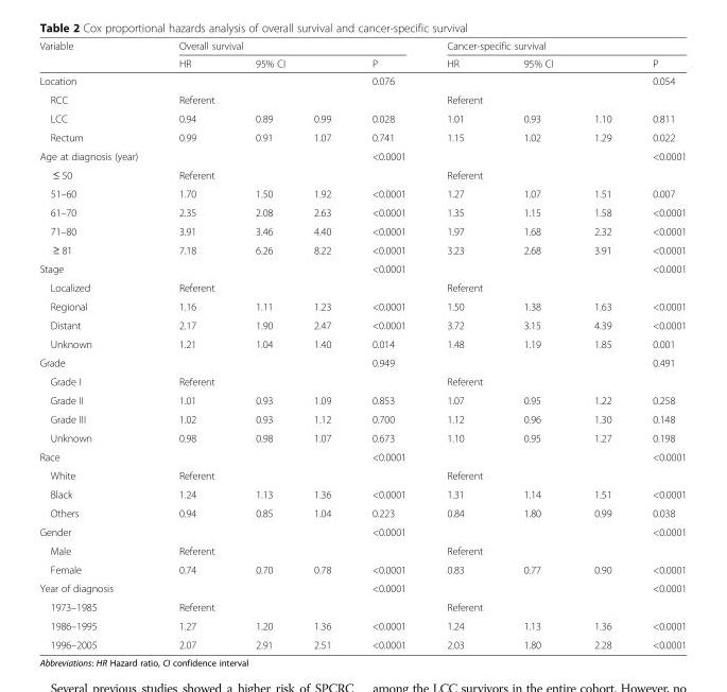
<table><thead><tr><td rowspan="3">Variable Location</td><td colspan="4">Overall survival</td><td colspan="4">Cancer-specific survival</td></tr><tr><td rowspan="2">HR</td><td colspan="2">95% CI</td><td rowspan="2">P 0.076</td><td rowspan="2">HR</td><td rowspan="2">95% CI</td><td rowspan="2"></td><td rowspan="2">P 0.054</td></tr><tr><td></td><td></td></tr></thead><tbody><tr><td>RCC</td><td>Referent</td><td></td><td></td><td></td><td>Referent</td><td></td><td></td><td></td></tr><tr><td>LCC</td><td>0.94</td><td>0.89</td><td>0.99</td><td>0.028</td><td>1.01</td><td>0.93</td><td>1.10</td><td>0.811</td></tr><tr><td>Rectum</td><td>0.99</td><td>0.91</td><td>1.07</td><td>0.741</td><td>1.15</td><td>1.02</td><td>1.29</td><td>0.022</td></tr><tr><td>Age at diagnosis (year)</td><td></td><td></td><td></td><td>&lt;0.0001</td><td></td><td></td><td></td><td>&lt;0.0001</td></tr><tr><td>≤ 50</td><td>Referent</td><td></td><td></td><td></td><td>Referent</td><td></td><td></td><td></td></tr><tr><td>51–60</td><td>1.70</td><td>1.50</td><td>1.92</td><td>&lt;0.0001</td><td>1.27</td><td>1.07</td><td>1.51</td><td>0.007</td></tr><tr><td>61–70</td><td>2.35</td><td>2.08</td><td>2.63</td><td>&lt;0.0001</td><td>1.35</td><td>1.15</td><td>1.58</td><td>&lt;0.0001</td></tr><tr><td>71–80</td><td>3.91</td><td>3.46</td><td>4.40</td><td>&lt;0.0001</td><td>1.97</td><td>1.68</td><td>2.32</td><td>&lt;0.0001</td></tr><tr><td>≥ 81</td><td>7.18</td><td>6.26</td><td>8.22</td><td>&lt;0.0001</td><td>3.23</td><td>2.68</td><td>3.91</td><td>&lt;0.0001</td></tr><tr><td>Stage</td><td></td><td></td><td></td><td>&lt;0.0001</td><td></td><td></td><td></td><td>&lt;0.0001</td></tr><tr><td>Localized</td><td>Referent</td><td></td><td></td><td></td><td>Referent</td><td></td><td></td><td></td></tr><tr><td>Regional</td><td>1.16</td><td>1.11</td><td>1.23</td><td>&lt;0.0001</td><td>1.50</td><td>1.38</td><td>1.63</td><td>&lt;0.0001</td></tr><tr><td>Distant</td><td>2.17</td><td>1.90</td><td>2.47</td><td>&lt;0.0001</td><td>3.72</td><td>3.15</td><td>4.39</td><td>&lt;0.0001</td></tr><tr><td>Unknown</td><td>1.21</td><td>1.04</td><td>1.40</td><td>0.014</td><td>1.48</td><td>1.19</td><td>1.85</td><td>0.001</td></tr><tr><td>Grade</td><td></td><td></td><td></td><td>0.949</td><td></td><td></td><td></td><td>0.491</td></tr><tr><td>Grade I</td><td>Referent</td><td></td><td></td><td></td><td>Referent</td><td></td><td></td><td></td></tr><tr><td>Grade II</td><td>1.01</td><td>0.93</td><td>1.09</td><td>0.853</td><td>1.07</td><td>0.95</td><td>1.22</td><td>0.258</td></tr><tr><td>Grade III</td><td>1.02</td><td>0.93</td><td>1.12</td><td>0.700</td><td>1.12</td><td>0.96</td><td>1.30</td><td>0.148</td></tr><tr><td>Unknown</td><td>0.98</td><td>0.98</td><td>1.07</td><td>0.673</td><td>1.10</td><td>0.95</td><td>1.27</td><td>0.198</td></tr><tr><td>Race</td><td></td><td></td><td></td><td>&lt;0.0001</td><td></td><td></td><td></td><td>&lt;0.0001</td></tr><tr><td>White</td><td>Referent</td><td></td><td></td><td></td><td>Referent</td><td></td><td></td><td></td></tr><tr><td>Black</td><td>1.24</td><td>1.13</td><td>1.36</td><td>&lt;0.0001</td><td>1.31</td><td>1.14</td><td>1.51</td><td>&lt;0.0001</td></tr><tr><td>Others</td><td>0.94</td><td>0.85</td><td>1.04</td><td>0.223</td><td>0.84</td><td>1.80</td><td>0.99</td><td>0.038</td></tr><tr><td>Gender</td><td></td><td></td><td></td><td>&lt;0.0001</td><td></td><td></td><td></td><td>&lt;0.0001</td></tr><tr><td>Male</td><td>Referent</td><td></td><td></td><td></td><td>Referent</td><td></td><td></td><td></td></tr><tr><td>Female</td><td>0.74</td><td>0.70</td><td>0.78</td><td>&lt;0.0001</td><td>0.83</td><td>0.77</td><td>0.90</td><td>&lt;0.0001</td></tr><tr><td>Year of diagnosis</td><td></td><td></td><td></td><td>&lt;0.0001</td><td></td><td></td><td></td><td>&lt;0.0001</td></tr><tr><td>1973–1985</td><td>Referent</td><td></td><td></td><td></td><td>Referent</td><td></td><td></td><td></td></tr><tr><td>1986–1995</td><td>1.27</td><td>1.20</td><td>1.36</td><td>&lt;0.0001</td><td>1.24</td><td>1.13</td><td>1.36</td><td>&lt;0.0001</td></tr><tr><td>1996–2005</td><td>2.07</td><td>2.91</td><td>2.51</td><td>&lt;0.0001</td><td>2.03</td><td>1.80</td><td>2.28</td><td>&lt;0.0001</td></tr></tbody></table>